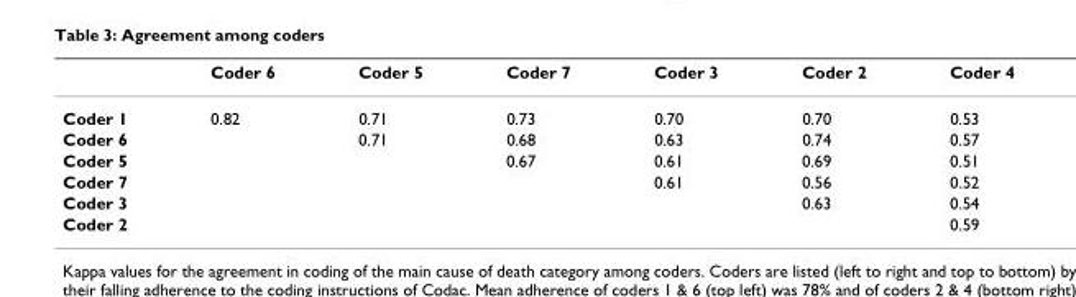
<table><thead><tr><td></td><td>Coder 6</td><td>Coder 5</td><td>Coder 7</td><td>Coder 3</td><td>Coder 2</td><td>Coder 4</td></tr></thead><tbody><tr><td>Coder 1</td><td>0.82</td><td>0.71</td><td>0.73</td><td>0.70</td><td>0.70</td><td>0.53</td></tr><tr><td>Coder 6</td><td></td><td>0.71</td><td>0.68</td><td>0.63</td><td>0.74</td><td>0.57</td></tr><tr><td>Coder 5</td><td></td><td></td><td>0.67</td><td>0.61</td><td>0.69</td><td>0.51</td></tr><tr><td>Coder 7</td><td></td><td></td><td></td><td>0.61</td><td>0.56</td><td>0.52</td></tr><tr><td>Coder 3</td><td></td><td></td><td></td><td></td><td>0.63</td><td>0.54</td></tr><tr><td>Coder 2</td><td></td><td></td><td></td><td></td><td></td><td>0.59</td></tr></tbody></table>